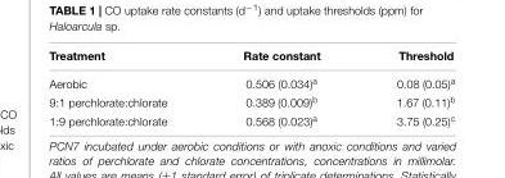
<table><thead><tr><td>Treatment</td><td>Rate constant</td><td>Threshold</td></tr></thead><tbody><tr><td>Aerobic</td><td>0.506 (0.034)<sup>a</sup></td><td>0.08 (0.05)<sup>a</sup></td></tr><tr><td>9:1 perchlorate:chlorate</td><td>0.389 (0.009)<sup>b</sup></td><td>1.67 (0.11)<sup>b</sup></td></tr><tr><td>1:9 perchlorate:chlorate</td><td>0.568 (0.023)<sup>a</sup></td><td>3.75 (0.25)<sup>c</sup></td></tr></tbody></table>